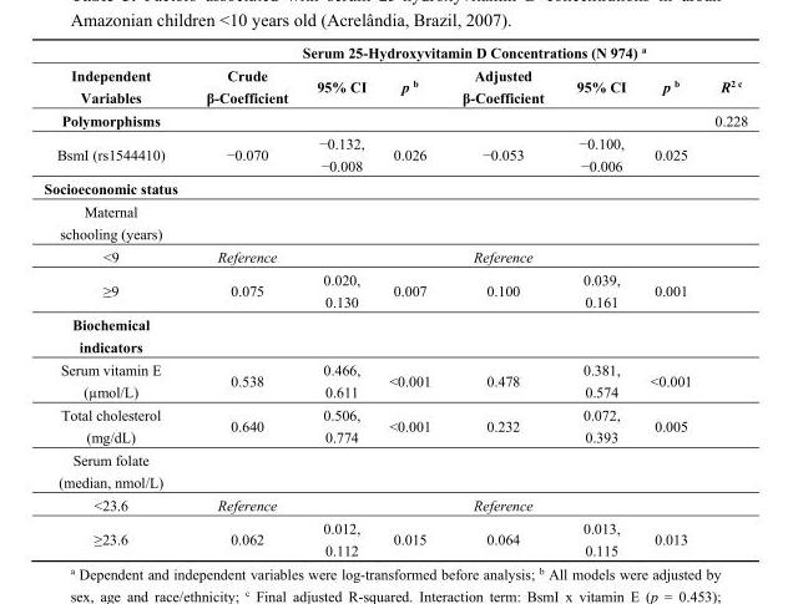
<table><thead><tr><td rowspan="2">Independent Variables</td><td colspan="7">Serum 25-Hydroxyvitamin D Concentrations (N 974) <sup>a</sup></td></tr><tr><td>Crude β-Coefficient</td><td>95% CI</td><td>p <sup>b</sup></td><td>Adjusted β-Coefficient</td><td>95% CI</td><td>p <sup>b</sup></td><td>R<sup>2 c</sup></td></tr></thead><tbody><tr><td>Polymorphisms</td><td></td><td></td><td></td><td></td><td></td><td></td><td>0.228</td></tr><tr><td>BsmI (rs1544410)</td><td>−0.070</td><td>−0.132, −0.008</td><td>0.026</td><td>−0.053</td><td>−0.100, −0.006</td><td>0.025</td><td></td></tr><tr><td colspan="8">Socioeconomic status</td></tr><tr><td colspan="8">Maternal schooling (years)</td></tr><tr><td>&lt;9</td><td>Reference</td><td></td><td></td><td>Reference</td><td></td><td></td><td></td></tr><tr><td>≥9</td><td>0.075</td><td>0.020, 0.130</td><td>0.007</td><td>0.100</td><td>0.039, 0.161</td><td>0.001</td><td></td></tr><tr><td colspan="8">Biochemical indicators</td></tr><tr><td>Serum vitamin E (µmol/L)</td><td>0.538</td><td>0.466, 0.611</td><td>&lt;0.001</td><td>0.478</td><td>0.381, 0.574</td><td>&lt;0.001</td><td></td></tr><tr><td>Total cholesterol (mg/dL)</td><td>0.640</td><td>0.506, 0.774</td><td>&lt;0.001</td><td>0.232</td><td>0.072, 0.393</td><td>0.005</td><td></td></tr><tr><td colspan="8">Serum folate (median, nmol/L)</td></tr><tr><td>&lt;23.6</td><td>Reference</td><td></td><td></td><td>Reference</td><td></td><td></td><td></td></tr><tr><td>≥23.6</td><td>0.062</td><td>0.012, 0.112</td><td>0.015</td><td>0.064</td><td>0.013, 0.115</td><td>0.013</td><td></td></tr></tbody></table>